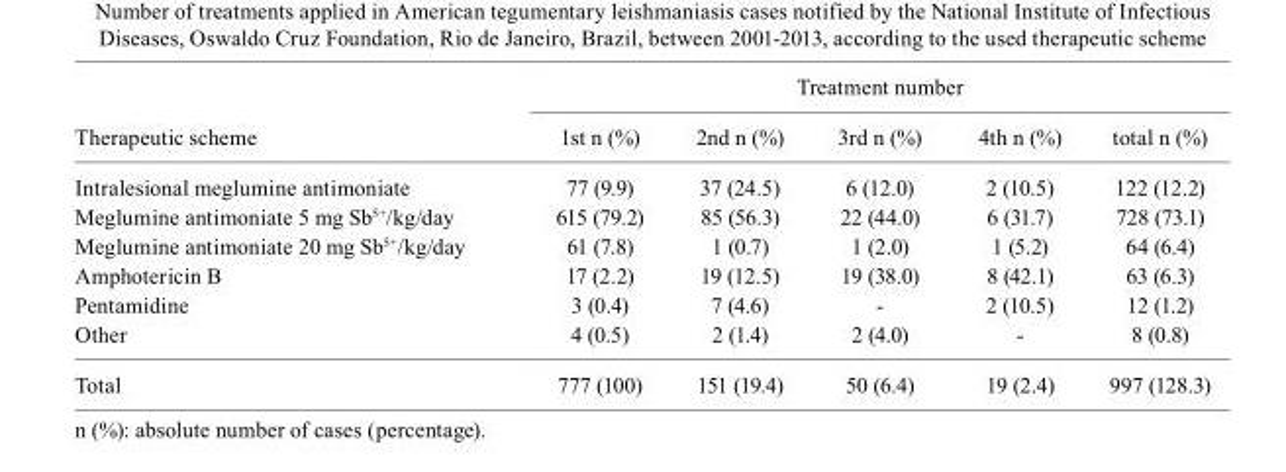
<table><thead><tr><td rowspan="2">Therapeutic scheme</td><td colspan="5">Treatment number</td></tr><tr><td>1st n (%)</td><td>2nd n (%)</td><td>3rd n (%)</td><td>4th n (%)</td><td>total n (%)</td></tr></thead><tbody><tr><td>Intralesional meglumine antimoniate</td><td>77 (9.9)</td><td>37 (24.5)</td><td>6 (12.0)</td><td>2 (10.5)</td><td>122 (12.2)</td></tr><tr><td>Meglumine antimoniate 5 mg Sb<sup>5+</sup>/kg/day</td><td>615 (79.2)</td><td>85 (56.3)</td><td>22 (44.0)</td><td>6 (31.7)</td><td>728 (73.1)</td></tr><tr><td>Meglumine antimoniate 20 mg Sb<sup>5+</sup>/kg/day</td><td>61 (7.8)</td><td>1 (0.7)</td><td>1 (2.0)</td><td>1 (5.2)</td><td>64 (6.4)</td></tr><tr><td>Amphotericin B</td><td>17 (2.2)</td><td>19 (12.5)</td><td>19 (38.0)</td><td>8 (42.1)</td><td>63 (6.3)</td></tr><tr><td>Pentamidine</td><td>3 (0.4)</td><td>7 (4.6)</td><td>-</td><td>2 (10.5)</td><td>12 (1.2)</td></tr><tr><td>Other</td><td>4 (0.5)</td><td>2 (1.4)</td><td>2 (4.0)</td><td>-</td><td>8 (0.8)</td></tr><tr><td>Total</td><td>777 (100)</td><td>151 (19.4)</td><td>50 (6.4)</td><td>19 (2.4)</td><td>997 (128.3)</td></tr></tbody></table>